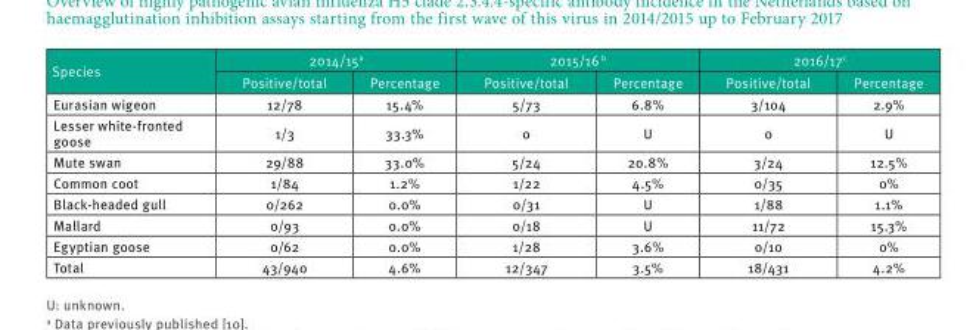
<table><thead><tr><td rowspan="2">Species</td><td colspan="2">2014/15<sup>a</sup></td><td colspan="2">2015/16 <sup>b</sup></td><td colspan="2">2016/17<sup>c</sup></td></tr><tr><td>Positive/total</td><td>Percentage</td><td>Positive/total</td><td>Percentage</td><td>Positive/total</td><td>Percentage</td></tr></thead><tbody><tr><td>Eurasian wigeon</td><td>12/78</td><td>15.4%</td><td>5/73</td><td>6.8%</td><td>3/104</td><td>2.9%</td></tr><tr><td>Lesser white-fronted goose</td><td>1/3</td><td>33.3%</td><td>0</td><td>U</td><td>0</td><td>U</td></tr><tr><td>Mute swan</td><td>29/88</td><td>33.0%</td><td>5/24</td><td>20.8%</td><td>3/24</td><td>12.5%</td></tr><tr><td>Common coot</td><td>1/84</td><td>1.2%</td><td>1/22</td><td>4.5%</td><td>0/35</td><td>0%</td></tr><tr><td>Black-headed gull</td><td>0/262</td><td>0.0%</td><td>0/31</td><td>U</td><td>1/88</td><td>1.1%</td></tr><tr><td>Mallard</td><td>0/93</td><td>0.0%</td><td>0/18</td><td>U</td><td>11/72</td><td>15.3%</td></tr><tr><td>Egyptian goose</td><td>0/62</td><td>0.0%</td><td>1/28</td><td>3.6%</td><td>0/10</td><td>0%</td></tr><tr><td>Total</td><td>43/940</td><td>4.6%</td><td>12/347</td><td>3.5%</td><td>18/431</td><td>4.2%</td></tr></tbody></table>